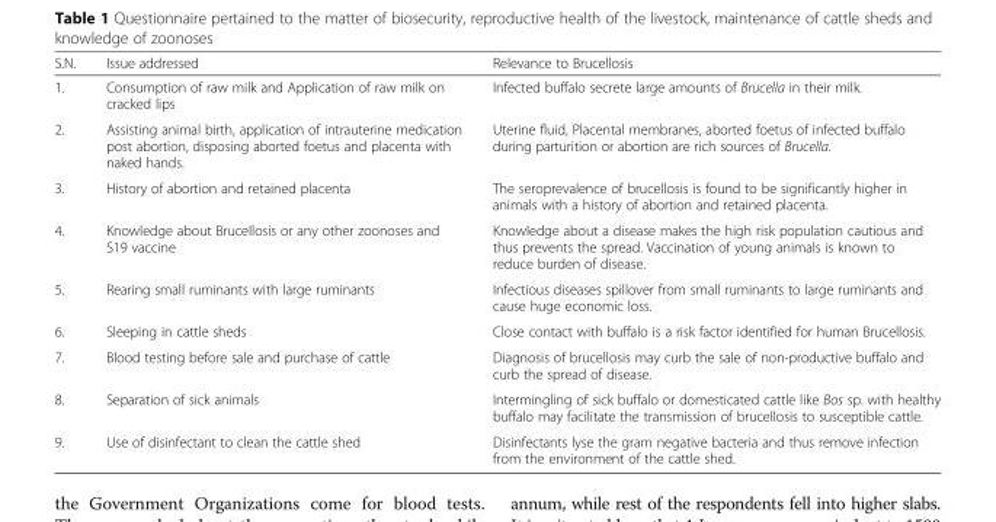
<table><thead><tr><td>S.N.</td><td>Issue addressed</td><td>Relevance to Brucellosis</td></tr></thead><tbody><tr><td>1.</td><td>Consumption of raw milk and Application of raw milk on cracked lips</td><td>Infected buffalo secrete large amounts of Brucella in their milk.</td></tr><tr><td>2.</td><td>Assisting animal birth, application of intrauterine medication post abortion, disposing aborted foetus and placenta with naked hands.</td><td>Uterine fluid, Placental membranes, aborted foetus of infected buffalo during parturition or abortion are rich sources of Brucella.</td></tr><tr><td>3.</td><td>History of abortion and retained placenta</td><td>The seroprevalence of brucellosis is found to be significantly higher in animals with a history of abortion and retained placenta.</td></tr><tr><td>4.</td><td>Knowledge about Brucellosis or any other zoonoses and S19 vaccine</td><td>Knowledge about a disease makes the high risk population cautious and thus prevents the spread. Vaccination of young animals is known to reduce burden of disease.</td></tr><tr><td>5.</td><td>Rearing small ruminants with large ruminants</td><td>Infectious diseases spillover from small ruminants to large ruminants and cause huge economic loss.</td></tr><tr><td>6.</td><td>Sleeping in cattle sheds</td><td>Close contact with buffalo is a risk factor identified for human Brucellosis.</td></tr><tr><td>7.</td><td>Blood testing before sale and purchase of cattle</td><td>Diagnosis of brucellosis may curb the sale of non-productive buffalo and curb the spread of disease.</td></tr><tr><td>8.</td><td>Separation of sick animals</td><td>Intermingling of sick buffalo or domesticated cattle like Bos sp. with healthy buffalo may facilitate the transmission of brucellosis to susceptible cattle.</td></tr><tr><td>9.</td><td>Use of disinfectant to clean the cattle shed</td><td>Disinfectants lyse the gram negative bacteria and thus remove infection from the environment of the cattle shed.</td></tr></tbody></table>